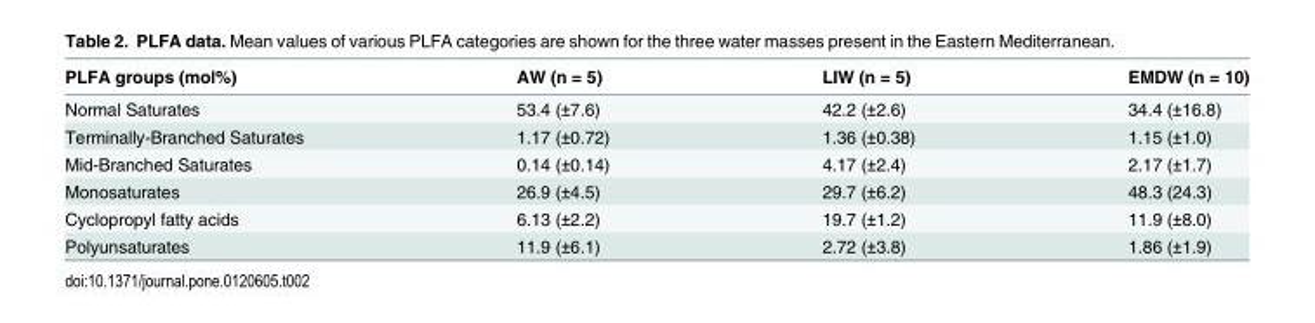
<table><thead><tr><td>PLFA groups (mol%)</td><td>AW (n = 5)</td><td>LIW (n = 5)</td><td>EMDW (n = 10)</td></tr></thead><tbody><tr><td>Normal Saturates</td><td>53.4 (±7.6)</td><td>42.2 (±2.6)</td><td>34.4 (±16.8)</td></tr><tr><td>Terminally-Branched Saturates</td><td>1.17 (±0.72)</td><td>1.36 (±0.38)</td><td>1.15 (±1.0)</td></tr><tr><td>Mid-Branched Saturates</td><td>0.14 (±0.14)</td><td>4.17 (±2.4)</td><td>2.17 (±1.7)</td></tr><tr><td>Monosaturates</td><td>26.9 (±4.5)</td><td>29.7 (±6.2)</td><td>48.3 (24.3)</td></tr><tr><td>Cyclopropyl fatty acids</td><td>6.13 (±2.2)</td><td>19.7 (±1.2)</td><td>11.9 (±8.0)</td></tr><tr><td>Polyunsaturates</td><td>11.9 (±6.1)</td><td>2.72 (±3.8)</td><td>1.86 (±1.9)</td></tr></tbody></table>